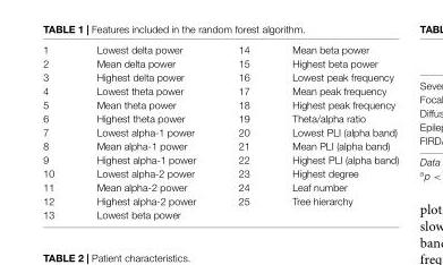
<table><tbody><tr><td>1</td><td>Lowest delta power</td><td>14</td><td>Mean beta power</td></tr><tr><td>2</td><td>Mean delta power</td><td>15</td><td>Highest beta power</td></tr><tr><td>3</td><td>Highest delta power</td><td>16</td><td>Lowest peak frequency</td></tr><tr><td>4</td><td>Lowest theta power</td><td>17</td><td>Mean peak frequency</td></tr><tr><td>5</td><td>Mean theta power</td><td>18</td><td>Highest peak frequency</td></tr><tr><td>6</td><td>Highest theta power</td><td>19</td><td>Theta/alpha ratio</td></tr><tr><td>7</td><td>Lowest alpha-1 power</td><td>20</td><td>Lowest PLI (alpha band)</td></tr><tr><td>8</td><td>Mean alpha-1 power</td><td>21</td><td>Mean PLI (alpha band)</td></tr><tr><td>9</td><td>Highest alpha-1 power</td><td>22</td><td>Highest PLI (alpha band)</td></tr><tr><td>10</td><td>Lowest alpha-2 power</td><td>23</td><td>Highest degree</td></tr><tr><td>11</td><td>Mean alpha-2 power</td><td>24</td><td>Leaf number</td></tr><tr><td>12</td><td>Highest alpha-2 power</td><td>25</td><td>Tree hierarchy</td></tr><tr><td>13</td><td>Lowest beta power</td><td></td><td></td></tr></tbody></table>